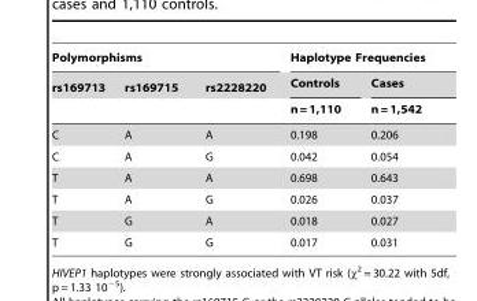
<table><thead><tr><td colspan="3">Polymorphisms</td><td colspan="2">Haplotype Frequencies</td></tr><tr><td rowspan="2">rs169713</td><td rowspan="2">rs169715</td><td rowspan="2">rs2228220</td><td rowspan="2">Controls n = 1,110</td><td rowspan="2">Cases n = 1,542</td></tr><tr></tr></thead><tbody><tr><td>C</td><td>A</td><td>A</td><td>0.198</td><td>0.206</td></tr><tr><td>C</td><td>A</td><td>G</td><td>0.042</td><td>0.054</td></tr><tr><td>T</td><td>A</td><td>A</td><td>0.698</td><td>0.643</td></tr><tr><td>T</td><td>A</td><td>G</td><td>0.026</td><td>0.037</td></tr><tr><td>T</td><td>G</td><td>A</td><td>0.018</td><td>0.027</td></tr><tr><td>T</td><td>G</td><td>G</td><td>0.017</td><td>0.031</td></tr></tbody></table>